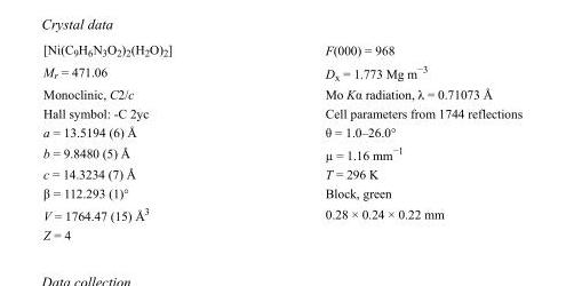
<table><tbody><tr><td>[Ni(C<sub>9</sub>H<sub>6</sub>N<sub>3</sub>O<sub>2</sub>)<sub>2</sub>(H<sub>2</sub>O)<sub>2</sub>]</td><td>F(000) = 968</td></tr><tr><td>M<sub>r</sub> = 471.06</td><td>D<sub>x</sub> = 1.773 Mg m<sup>−3</sup></td></tr><tr><td>Monoclinic, C2/c</td><td>Mo Kα radiation, λ = 0.71073 Å</td></tr><tr><td>Hall symbol: -C 2yc</td><td>Cell parameters from 1744 reflections</td></tr><tr><td>a = 13.5194 (6) Å</td><td>θ = 1.0–26.0°</td></tr><tr><td>b = 9.8480 (5) Å</td><td>µ = 1.16 mm<sup>−1</sup></td></tr><tr><td>c = 14.3234 (7) Å</td><td>T = 296 K</td></tr><tr><td>β = 112.293 (1)°</td><td>Block, green</td></tr><tr><td>V = 1764.47 (15) Å<sup>3</sup></td><td>0.28 × 0.24 × 0.22 mm</td></tr><tr><td>Z = 4</td><td></td></tr></tbody></table>